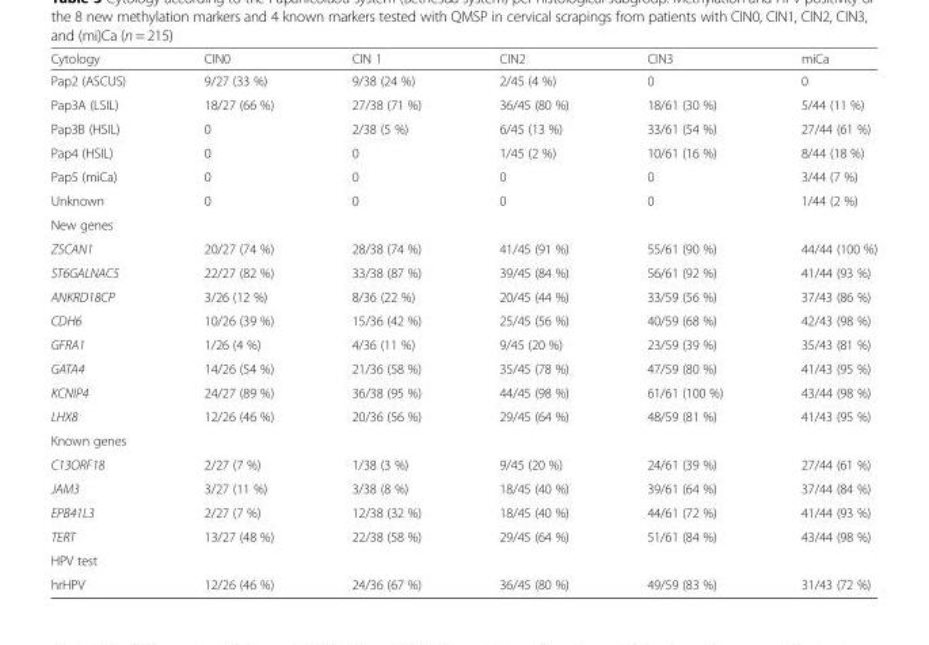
<table><thead><tr><td>Cytology</td><td>CIN0</td><td>CIN 1</td><td>CIN2</td><td>CIN3</td><td>miCa</td></tr></thead><tbody><tr><td>Pap2 (ASCUS)</td><td>9/27 (33 %)</td><td>9/38 (24 %)</td><td>2/45 (4 %)</td><td>0</td><td>0</td></tr><tr><td>Pap3A (LSIL)</td><td>18/27 (66 %)</td><td>27/38 (71 %)</td><td>36/45 (80 %)</td><td>18/61 (30 %)</td><td>5/44 (11 %)</td></tr><tr><td>Pap3B (HSIL)</td><td>0</td><td>2/38 (5 %)</td><td>6/45 (13 %)</td><td>33/61 (54 %)</td><td>27/44 (61 %)</td></tr><tr><td>Pap4 (HSIL)</td><td>0</td><td>0</td><td>1/45 (2 %)</td><td>10/61 (16 %)</td><td>8/44 (18 %)</td></tr><tr><td>Pap5 (miCa)</td><td>0</td><td>0</td><td>0</td><td>0</td><td>3/44 (7 %)</td></tr><tr><td>Unknown</td><td>0</td><td>0</td><td>0</td><td>0</td><td>1/44 (2 %)</td></tr><tr><td colspan="6">New genes</td></tr><tr><td>ZSCAN1</td><td>20/27 (74 %)</td><td>28/38 (74 %)</td><td>41/45 (91 %)</td><td>55/61 (90 %)</td><td>44/44 (100 %)</td></tr><tr><td>ST6GALNAC5</td><td>22/27 (82 %)</td><td>33/38 (87 %)</td><td>39/45 (84 %)</td><td>56/61 (92 %)</td><td>41/44 (93 %)</td></tr><tr><td>ANKRD18CP</td><td>3/26 (12 %)</td><td>8/36 (22 %)</td><td>20/45 (44 %)</td><td>33/59 (56 %)</td><td>37/43 (86 %)</td></tr><tr><td>CDH6</td><td>10/26 (39 %)</td><td>15/36 (42 %)</td><td>25/45 (56 %)</td><td>40/59 (68 %)</td><td>42/43 (98 %)</td></tr><tr><td>GFRA1</td><td>1/26 (4 %)</td><td>4/36 (11 %)</td><td>9/45 (20 %)</td><td>23/59 (39 %)</td><td>35/43 (81 %)</td></tr><tr><td>GATA4</td><td>14/26 (54 %)</td><td>21/36 (58 %)</td><td>35/45 (78 %)</td><td>47/59 (80 %)</td><td>41/43 (95 %)</td></tr><tr><td>KCNIP4</td><td>24/27 (89 %)</td><td>36/38 (95 %)</td><td>44/45 (98 %)</td><td>61/61 (100 %)</td><td>43/44 (98 %)</td></tr><tr><td>LHX8</td><td>12/26 (46 %)</td><td>20/36 (56 %)</td><td>29/45 (64 %)</td><td>48/59 (81 %)</td><td>41/43 (95 %)</td></tr><tr><td colspan="6">Known genes</td></tr><tr><td>C13ORF18</td><td>2/27 (7 %)</td><td>1/38 (3 %)</td><td>9/45 (20 %)</td><td>24/61 (39 %)</td><td>27/44 (61 %)</td></tr><tr><td>JAM3</td><td>3/27 (11 %)</td><td>3/38 (8 %)</td><td>18/45 (40 %)</td><td>39/61 (64 %)</td><td>37/44 (84 %)</td></tr><tr><td>EPB41L3</td><td>2/27 (7 %)</td><td>12/38 (32 %)</td><td>18/45 (40 %)</td><td>44/61 (72 %)</td><td>41/44 (93 %)</td></tr><tr><td>TERT</td><td>13/27 (48 %)</td><td>22/38 (58 %)</td><td>29/45 (64 %)</td><td>51/61 (84 %)</td><td>43/44 (98 %)</td></tr><tr><td colspan="6">HPV test</td></tr><tr><td>hrHPV</td><td>12/26 (46 %)</td><td>24/36 (67 %)</td><td>36/45 (80 %)</td><td>49/59 (83 %)</td><td>31/43 (72 %)</td></tr></tbody></table>